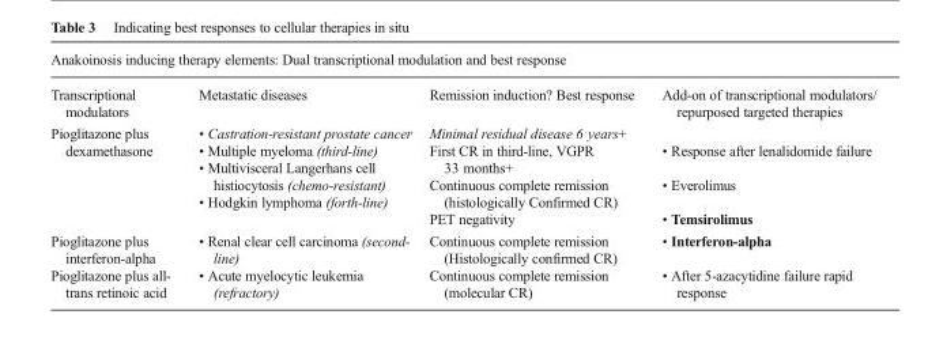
<table><thead><tr><td colspan="4">Anakoinosis inducing therapy elements: Dual transcriptional modulation and best response</td></tr><tr><td>Transcriptional modulators</td><td>Metastatic diseases</td><td>Remission induction? Best response</td><td>Add-on of transcriptional modulators/ repurposed targeted therapies</td></tr></thead><tbody><tr><td>Pioglitazone plus dexamethasone</td><td>• Castration-resistant prostate cancer • Multiple myeloma (third-line) • Multivisceral Langerhans cell histiocytosis (chemo-resistant) • Hodgkin lymphoma (forth-line)</td><td>Minimal residual disease 6 years+ First CR in third-line, VGPR 33 months+ Continuous complete remission (histologically Confirmed CR) PET negativity</td><td>• Response after lenalidomide failure • Everolimus • Temsirolimus</td></tr><tr><td>Pioglitazone plus interferon-alpha</td><td>• Renal clear cell carcinoma (second- line)</td><td>Continuous complete remission (Histologically confirmed CR)</td><td>• Interferon-alpha</td></tr><tr><td>Pioglitazone plus all- trans retinoic acid</td><td>• Acute myelocytic leukemia (refractory)</td><td>Continuous complete remission (molecular CR)</td><td>• After 5-azacytidine failure rapid response</td></tr></tbody></table>